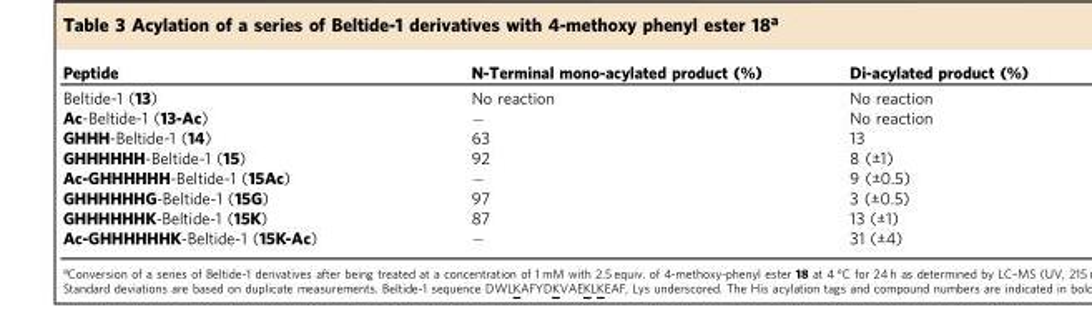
<table><thead><tr><td>Peptide</td><td>N-Terminal mono-acylated product (%)</td><td>Di-acylated product (%)</td></tr></thead><tbody><tr><td>Beltide-1 (13)</td><td>No reaction</td><td>No reaction</td></tr><tr><td>Ac-Beltide-1 (13-Ac)</td><td>−</td><td>No reaction</td></tr><tr><td>GHHH-Beltide-1 (14)</td><td>63</td><td>13</td></tr><tr><td>GHHHHHH-Beltide-1 (15)</td><td>92</td><td>8 (±1)</td></tr><tr><td>Ac-GHHHHHH-Beltide-1 (15Ac)</td><td>−</td><td>9 (±0.5)</td></tr><tr><td>GHHHHHHG-Beltide-1 (15G)</td><td>97</td><td>3 (±0.5)</td></tr><tr><td>GHHHHHHK-Beltide-1 (15K)</td><td>87</td><td>13 (±1)</td></tr><tr><td>Ac-GHHHHHHK-Beltide-1 (15K-Ac)</td><td>−</td><td>31 (±4)</td></tr></tbody></table>